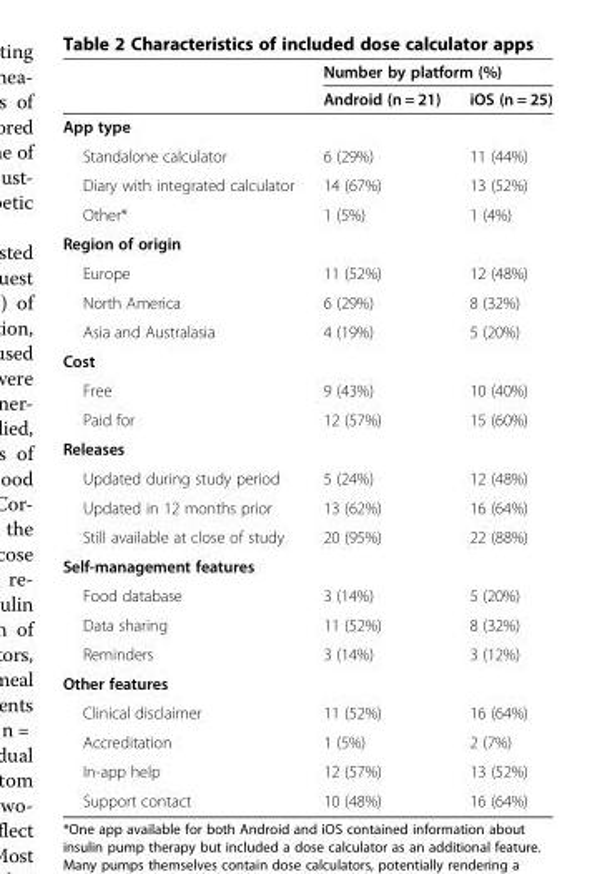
<table><thead><tr><td rowspan="2"></td><td colspan="2">Number by platform (%)</td></tr><tr><td>Android (n = 21)</td><td>iOS (n = 25)</td></tr></thead><tbody><tr><td colspan="3">App type</td></tr><tr><td>Standalone calculator</td><td>6 (29%)</td><td>11 (44%)</td></tr><tr><td>Diary with integrated calculator</td><td>14 (67%)</td><td>13 (52%)</td></tr><tr><td>Other*</td><td>1 (5%)</td><td>1 (4%)</td></tr><tr><td colspan="3">Region of origin</td></tr><tr><td>Europe</td><td>11 (52%)</td><td>12 (48%)</td></tr><tr><td>North America</td><td>6 (29%)</td><td>8 (32%)</td></tr><tr><td>Asia and Australasia</td><td>4 (19%)</td><td>5 (20%)</td></tr><tr><td colspan="3">Cost</td></tr><tr><td>Free</td><td>9 (43%)</td><td>10 (40%)</td></tr><tr><td>Paid for</td><td>12 (57%)</td><td>15 (60%)</td></tr><tr><td colspan="3">Releases</td></tr><tr><td>Updated during study period</td><td>5 (24%)</td><td>12 (48%)</td></tr><tr><td>Updated in 12 months prior</td><td>13 (62%)</td><td>16 (64%)</td></tr><tr><td>Still available at close of study</td><td>20 (95%)</td><td>22 (88%)</td></tr><tr><td colspan="3">Self-management features</td></tr><tr><td>Food database</td><td>3 (14%)</td><td>5 (20%)</td></tr><tr><td>Data sharing</td><td>11 (52%)</td><td>8 (32%)</td></tr><tr><td>Reminders</td><td>3 (14%)</td><td>3 (12%)</td></tr><tr><td colspan="3">Other features</td></tr><tr><td>Clinical disclaimer</td><td>11 (52%)</td><td>16 (64%)</td></tr><tr><td>Accreditation</td><td>1 (5%)</td><td>2 (7%)</td></tr><tr><td>In-app help</td><td>12 (57%)</td><td>13 (52%)</td></tr><tr><td>Support contact</td><td>10 (48%)</td><td>16 (64%)</td></tr></tbody></table>